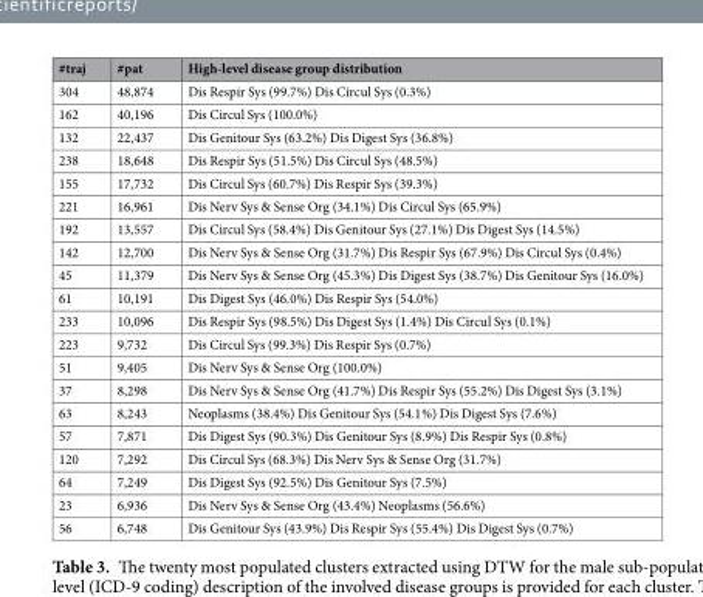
<table><thead><tr><td>#traj</td><td>#pat</td><td>High-level disease group distribution</td></tr></thead><tbody><tr><td>304</td><td>48,874</td><td>Dis Respir Sys (99.7%) Dis Circul Sys (0.3%)</td></tr><tr><td>162</td><td>40,196</td><td>Dis Circul Sys (100.0%)</td></tr><tr><td>132</td><td>22,437</td><td>Dis Genitour Sys (63.2%) Dis Digest Sys (36.8%)</td></tr><tr><td>238</td><td>18,648</td><td>Dis Respir Sys (51.5%) Dis Circul Sys (48.5%)</td></tr><tr><td>155</td><td>17,732</td><td>Dis Circul Sys (60.7%) Dis Respir Sys (39.3%)</td></tr><tr><td>221</td><td>16,961</td><td>Dis Nerv Sys &amp; Sense Org (34.1%) Dis Circul Sys (65.9%)</td></tr><tr><td>192</td><td>13,557</td><td>Dis Circul Sys (58.4%) Dis Genitour Sys (27.1%) Dis Digest Sys (14.5%)</td></tr><tr><td>142</td><td>12,700</td><td>Dis Nerv Sys &amp; Sense Org (31.7%) Dis Respir Sys (67.9%) Dis Circul Sys (0.4%)</td></tr><tr><td>45</td><td>11,379</td><td>Dis Nerv Sys &amp; Sense Org (45.3%) Dis Digest Sys (38.7%) Dis Genitour Sys (16.0%)</td></tr><tr><td>61</td><td>10,191</td><td>Dis Digest Sys (46.0%) Dis Respir Sys (54.0%)</td></tr><tr><td>233</td><td>10,096</td><td>Dis Respir Sys (98.5%) Dis Digest Sys (1.4%) Dis Circul Sys (0.1%)</td></tr><tr><td>223</td><td>9,732</td><td>Dis Circul Sys (99.3%) Dis Respir Sys (0.7%)</td></tr><tr><td>51</td><td>9,405</td><td>Dis Nerv Sys &amp; Sense Org (100.0%)</td></tr><tr><td>37</td><td>8,298</td><td>Dis Nerv Sys &amp; Sense Org (41.7%) Dis Respir Sys (55.2%) Dis Digest Sys (3.1%)</td></tr><tr><td>63</td><td>8,243</td><td>Neoplasms (38.4%) Dis Genitour Sys (54.1%) Dis Digest Sys (7.6%)</td></tr><tr><td>57</td><td>7,871</td><td>Dis Digest Sys (90.3%) Dis Genitour Sys (8.9%) Dis Respir Sys (0.8%)</td></tr><tr><td>120</td><td>7,292</td><td>Dis Circul Sys (68.3%) Dis Nerv Sys &amp; Sense Org (31.7%)</td></tr><tr><td>64</td><td>7,249</td><td>Dis Digest Sys (92.5%) Dis Genitour Sys (7.5%)</td></tr><tr><td>23</td><td>6,936</td><td>Dis Nerv Sys &amp; Sense Org (43.4%) Neoplasms (56.6%)</td></tr><tr><td>56</td><td>6,748</td><td>Dis Genitour Sys (43.9%) Dis Respir Sys (55.4%) Dis Digest Sys (0.7%)</td></tr></tbody></table>